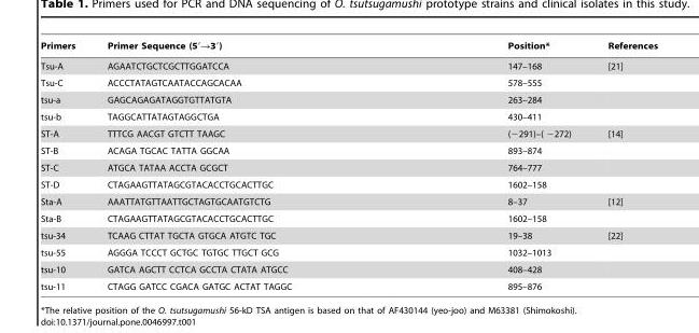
<table><thead><tr><td>Primers</td><td>Primer Sequence (5′→3′)</td><td>Position*</td><td>References</td></tr></thead><tbody><tr><td>Tsu-A</td><td>AGAATCTGCTCGCTTGGATCCA</td><td>147–168</td><td>[21]</td></tr><tr><td>Tsu-C</td><td>ACCCTATAGTCAATACCAGCACAA</td><td>578–555</td><td></td></tr><tr><td>tsu-a</td><td>GAGCAGAGATAGGTGTTATGTA</td><td>263–284</td><td></td></tr><tr><td>tsu-b</td><td>TAGGCATTATAGTAGGCTGA</td><td>430–411</td><td></td></tr><tr><td>ST-A</td><td>TTTCG AACGT GTCTT TAAGC</td><td>(−291)–( −272)</td><td>[14]</td></tr><tr><td>ST-B</td><td>ACAGA TGCAC TATTA GGCAA</td><td>893–874</td><td></td></tr><tr><td>ST-C</td><td>ATGCA TATAA ACCTA GCGCT</td><td>764–777</td><td></td></tr><tr><td>ST-D</td><td>CTAGAAGTTATAGCGTACACCTGCACTTGC</td><td>1602–158</td><td></td></tr><tr><td>Sta-A</td><td>AAATTATGTTAATTGCTAGTGCAATGTCTG</td><td>8–37</td><td>[12]</td></tr><tr><td>Sta-B</td><td>CTAGAAGTTATAGCGTACACCTGCACTTGC</td><td>1602–158</td><td></td></tr><tr><td>tsu-34</td><td>TCAAG CTTAT TGCTA GTGCA ATGTC TGC</td><td>19–38</td><td>[22]</td></tr><tr><td>tsu-55</td><td>AGGGA TCCCT GCTGC TGTGC TTGCT GCG</td><td>1032–1013</td><td></td></tr><tr><td>tsu-10</td><td>GATCA AGCTT CCTCA GCCTA CTATA ATGCC</td><td>408–428</td><td></td></tr><tr><td>tsu-11</td><td>CTAGG GATCC CGACA GATGC ACTAT TAGGC</td><td>895–876</td><td></td></tr></tbody></table>